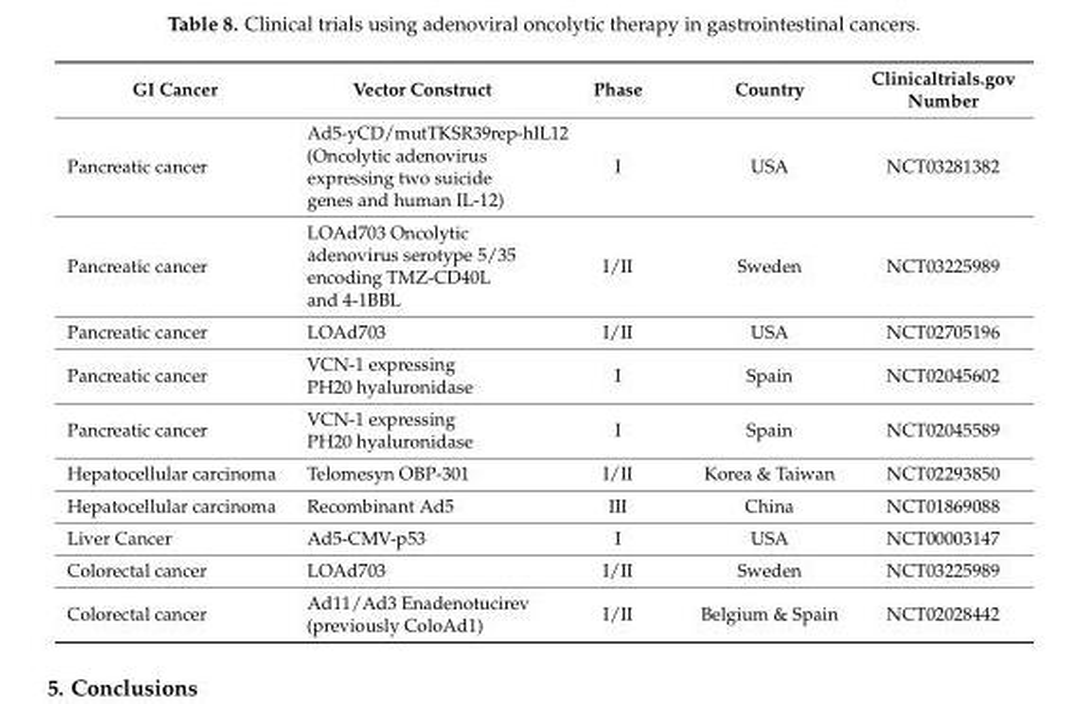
<table><thead><tr><td>GI Cancer</td><td>Vector Construct</td><td>Phase</td><td>Country</td><td>Clinicaltrials.gov Number</td></tr></thead><tbody><tr><td>Pancreatic cancer</td><td>Ad5-yCD/mutTKSR39rep-hIL12 (Oncolytic adenovirus expressing two suicide genes and human IL-12)</td><td>I</td><td>USA</td><td>NCT03281382</td></tr><tr><td>Pancreatic cancer</td><td>LOAd703 Oncolytic adenovirus serotype 5/35 encoding TMZ-CD40L and 4-1BBL</td><td>I/II</td><td>Sweden</td><td>NCT03225989</td></tr><tr><td>Pancreatic cancer</td><td>LOAd703</td><td>I/II</td><td>USA</td><td>NCT02705196</td></tr><tr><td>Pancreatic cancer</td><td>VCN-1 expressing PH20 hyaluronidase</td><td>I</td><td>Spain</td><td>NCT02045602</td></tr><tr><td>Pancreatic cancer</td><td>VCN-1 expressing PH20 hyaluronidase</td><td>I</td><td>Spain</td><td>NCT02045589</td></tr><tr><td>Hepatocellular carcinoma</td><td>Telomesyn OBP-301</td><td>I/II</td><td>Korea &amp; Taiwan</td><td>NCT02293850</td></tr><tr><td>Hepatocellular carcinoma</td><td>Recombinant Ad5</td><td>III</td><td>China</td><td>NCT01869088</td></tr><tr><td>Liver Cancer</td><td>Ad5-CMV-p53</td><td>I</td><td>USA</td><td>NCT00003147</td></tr><tr><td>Colorectal cancer</td><td>LOAd703</td><td>I/II</td><td>Sweden</td><td>NCT03225989</td></tr><tr><td>Colorectal cancer</td><td>Ad11/Ad3 Enadenotucirev (previously ColoAd1)</td><td>I/II</td><td>Belgium &amp; Spain</td><td>NCT02028442</td></tr></tbody></table>